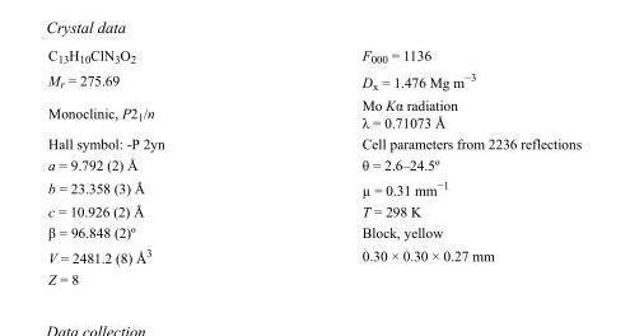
<table><tbody><tr><td>C<sub>13</sub>H<sub>10</sub>ClN<sub>3</sub>O<sub>2</sub></td><td>F000 = 1136</td></tr><tr><td>M<sub>r</sub> = 275.69</td><td>D<sub>x</sub> = 1.476 Mg m<sup>−3</sup></td></tr><tr><td>Monoclinic, P2<sub>1</sub>/n</td><td>Mo Kα radiation λ = 0.71073 Å</td></tr><tr><td>Hall symbol: -P 2yn</td><td>Cell parameters from 2236 reflections</td></tr><tr><td>a = 9.792 (2) Å</td><td>θ = 2.6–24.5º</td></tr><tr><td>b = 23.358 (3) Å</td><td>µ = 0.31 mm<sup>−1</sup></td></tr><tr><td>c = 10.926 (2) Å</td><td>T = 298 K</td></tr><tr><td>β = 96.848 (2)º</td><td>Block, yellow</td></tr><tr><td>V = 2481.2 (8) Å<sup>3</sup></td><td>0.30 × 0.30 × 0.27 mm</td></tr><tr><td>Z = 8</td><td></td></tr></tbody></table>